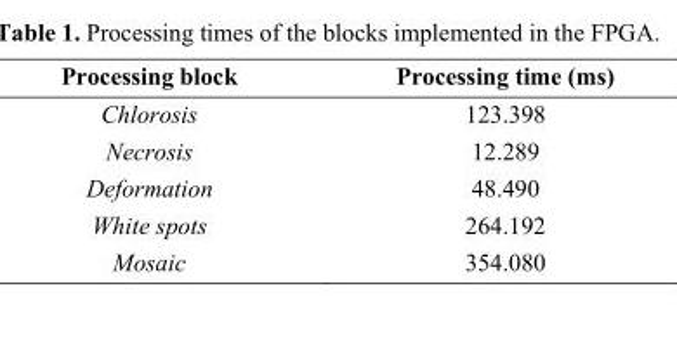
<table><thead><tr><td>Processing block</td><td>Processing time (ms)</td></tr></thead><tbody><tr><td>Chlorosis</td><td>123.398</td></tr><tr><td>Necrosis</td><td>12.289</td></tr><tr><td>Deformation</td><td>48.490</td></tr><tr><td>White spots</td><td>264.192</td></tr><tr><td>Mosaic</td><td>354.080</td></tr></tbody></table>